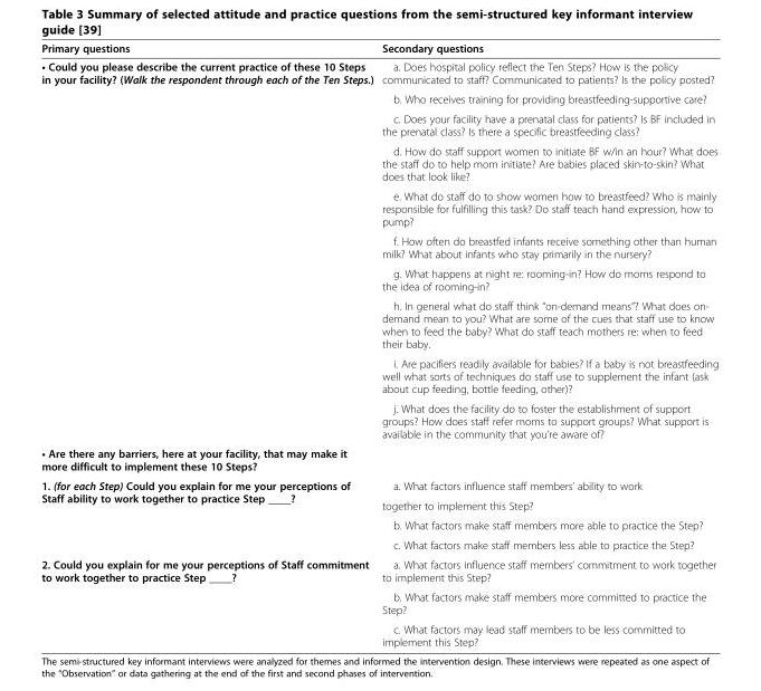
<table><thead><tr><td>Primary questions</td><td>Secondary questions</td></tr></thead><tbody><tr><td rowspan="10">• Could you please describe the current practice of these 10 Steps in your facility? (Walk the respondent through each of the Ten Steps.)</td><td>a. Does hospital policy reflect the Ten Steps? How is the policy communicated to staff? Communicated to patients? Is the policy posted?</td></tr><tr><td>b. Who receives training for providing breastfeeding-supportive care?</td></tr><tr><td>c. Does your facility have a prenatal class for patients? Is BF included in the prenatal class? Is there a specific breastfeeding class?</td></tr><tr><td>d. How do staff support women to initiate BF w/in an hour? What does the staff do to help mom initiate? Are babies placed skin-to-skin? What does that look like?</td></tr><tr><td>e. What do staff do to show women how to breastfeed? Who is mainly responsible for fulfilling this task? Do staff teach hand expression, how to pump?</td></tr><tr><td>f. How often do breastfed infants receive something other than human milk? What about infants who stay primarily in the nursery?</td></tr><tr><td>g. What happens at night re: rooming-in? How do moms respond to the idea of rooming-in?</td></tr><tr><td>h. In general what do staff think “on-demand means”? What does on- demand mean to you? What are some of the cues that staff use to know when to feed the baby? What do staff teach mothers re: when to feed their baby.</td></tr><tr><td>i. Are pacifiers readily available for babies? If a baby is not breastfeeding well what sorts of techniques do staff use to supplement the infant (ask about cup feeding, bottle feeding, other)?</td></tr><tr><td>j. What does the facility do to foster the establishment of support groups? How does staff refer moms to support groups? What support is available in the community that you’re aware of?</td></tr><tr><td colspan="2">• Are there any barriers, here at your facility, that may make it more difficult to implement these 10 Steps?</td></tr><tr><td rowspan="4">1. (for each Step) Could you explain for me your perceptions of Staff ability to work together to practice Step ____?</td><td>a. What factors influence staff members’ ability to work</td></tr><tr><td>together to implement this Step?</td></tr><tr><td>b. What factors make staff members more able to practice the Step?</td></tr><tr><td>c. What factors make staff members less able to practice the Step?</td></tr><tr><td rowspan="3">2. Could you explain for me your perceptions of Staff commitment to work together to practice Step ____?</td><td>a. What factors influence staff members’ commitment to work together to implement this Step?</td></tr><tr><td>b. What factors make staff members more committed to practice the Step?</td></tr><tr><td>c. What factors may lead staff members to be less committed to implement this Step?</td></tr></tbody></table>